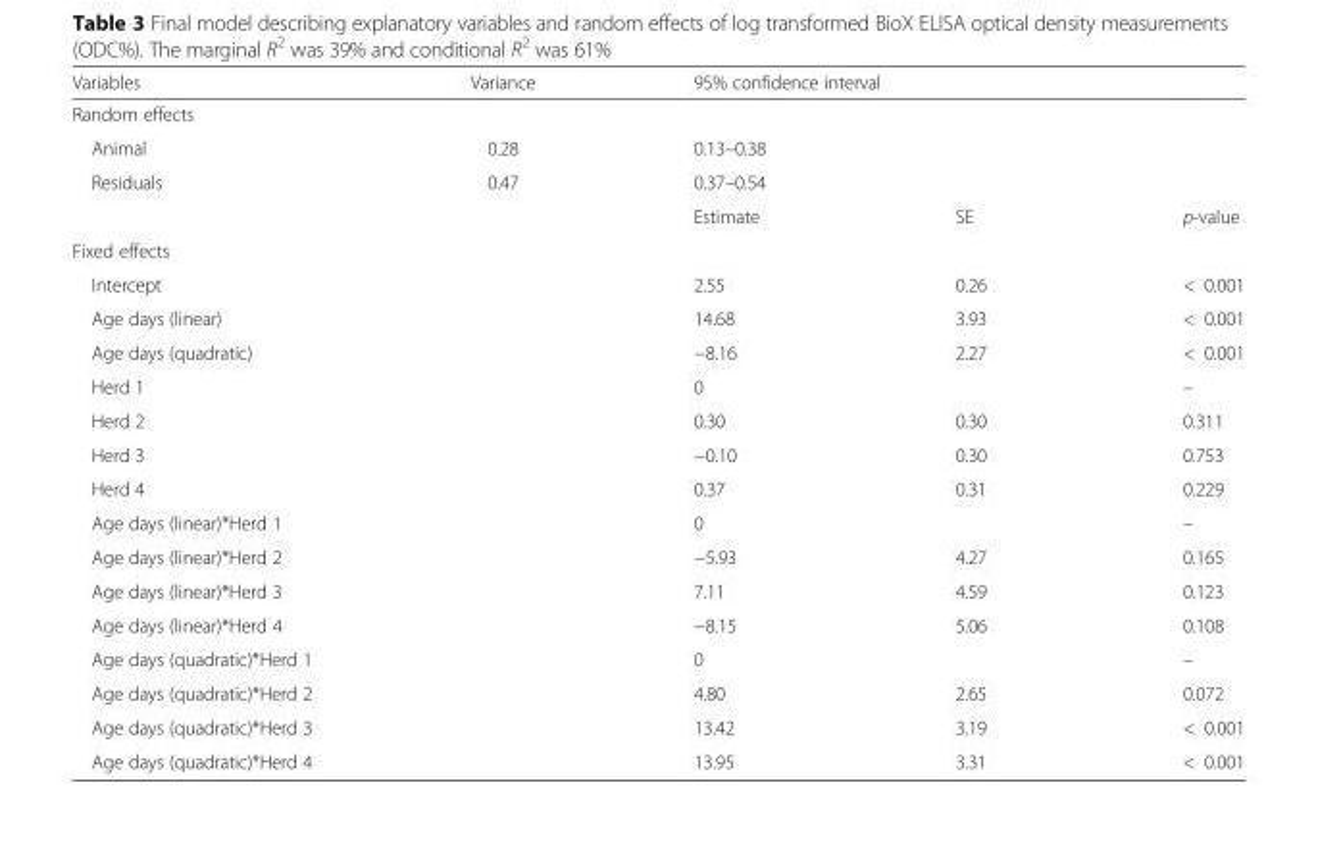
<table><thead><tr><td>Variables</td><td>Variance</td><td colspan="2">95% confidence interval</td><td></td></tr></thead><tbody><tr><td colspan="5">Random effects</td></tr><tr><td>Animal</td><td>0.28</td><td colspan="2">0.13–0.38</td><td></td></tr><tr><td rowspan="2">Residuals</td><td>0.47</td><td colspan="2">0.37–0.54</td><td></td></tr><tr><td></td><td>Estimate</td><td>SE</td><td>p-value</td></tr><tr><td colspan="5">Fixed effects</td></tr><tr><td>Intercept</td><td></td><td>2.55</td><td>0.26</td><td>&lt; 0.001</td></tr><tr><td>Age days (linear)</td><td></td><td>14.68</td><td>3.93</td><td>&lt; 0.001</td></tr><tr><td>Age days (quadratic)</td><td></td><td>−8.16</td><td>2.27</td><td>&lt; 0.001</td></tr><tr><td>Herd 1</td><td></td><td>0</td><td></td><td>–</td></tr><tr><td>Herd 2</td><td></td><td>0.30</td><td>0.30</td><td>0.311</td></tr><tr><td>Herd 3</td><td></td><td>−0.10</td><td>0.30</td><td>0.753</td></tr><tr><td>Herd 4</td><td></td><td>0.37</td><td>0.31</td><td>0.229</td></tr><tr><td>Age days (linear)*Herd 1</td><td></td><td>0</td><td></td><td>–</td></tr><tr><td>Age days (linear)*Herd 2</td><td></td><td>−5.93</td><td>4.27</td><td>0.165</td></tr><tr><td>Age days (linear)*Herd 3</td><td></td><td>7.11</td><td>4.59</td><td>0.123</td></tr><tr><td>Age days (linear)*Herd 4</td><td></td><td>−8.15</td><td>5.06</td><td>0.108</td></tr><tr><td>Age days (quadratic)*Herd 1</td><td></td><td>0</td><td></td><td>–</td></tr><tr><td>Age days (quadratic)*Herd 2</td><td></td><td>4.80</td><td>2.65</td><td>0.072</td></tr><tr><td>Age days (quadratic)*Herd 3</td><td></td><td>13.42</td><td>3.19</td><td>&lt; 0.001</td></tr><tr><td>Age days (quadratic)*Herd 4</td><td></td><td>13.95</td><td>3.31</td><td>&lt; 0.001</td></tr></tbody></table>